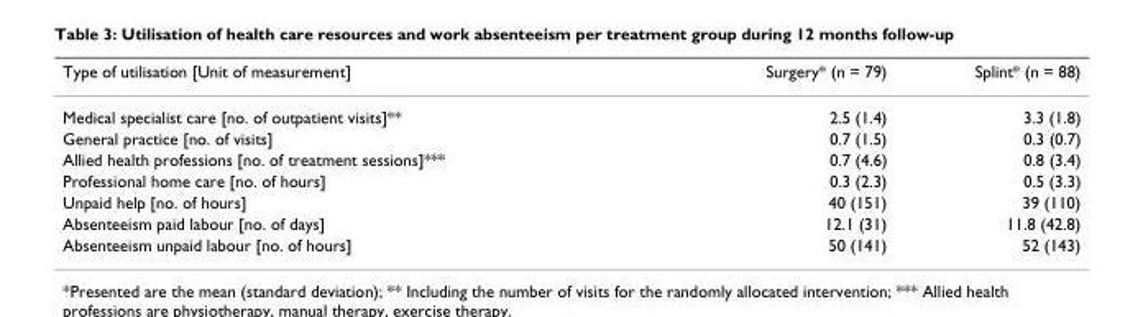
<table><thead><tr><td>Type of utilisation [Unit of measurement]</td><td>Surgery* (n = 79)</td><td>Splint* (n = 88)</td></tr></thead><tbody><tr><td>Medical specialist care [no. of outpatient visits]**</td><td>2.5 (1.4)</td><td>3.3 (1.8)</td></tr><tr><td>General practice [no. of visits]</td><td>0.7 (1.5)</td><td>0.3 (0.7)</td></tr><tr><td>Allied health professions [no. of treatment sessions]***</td><td>0.7 (4.6)</td><td>0.8 (3.4)</td></tr><tr><td>Professional home care [no. of hours]</td><td>0.3 (2.3)</td><td>0.5 (3.3)</td></tr><tr><td>Unpaid help [no. of hours]</td><td>40 (151)</td><td>39 (110)</td></tr><tr><td>Absenteeism paid labour [no. of days]</td><td>12.1 (31)</td><td>11.8 (42.8)</td></tr><tr><td>Absenteeism unpaid labour [no. of hours]</td><td>50 (141)</td><td>52 (143)</td></tr></tbody></table>